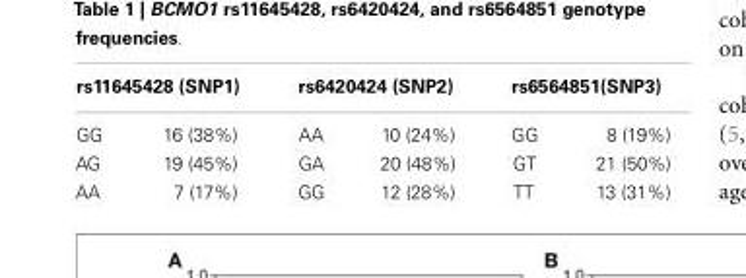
<table><thead><tr><td colspan="2">rs11645428 (SNP1)</td><td colspan="2">rs6420424 (SNP2)</td><td colspan="2">rs6564851(SNP3)</td></tr><tr><td>GG</td><td>16 (38%)</td><td>AA</td><td>10 (24%)</td><td>GG</td><td>8 (19%)</td></tr></thead><tbody><tr><td>AG</td><td>19 (45%)</td><td>GA</td><td>20 (48%)</td><td>GT</td><td>21 (50%)</td></tr><tr><td>AA</td><td>7 (17%)</td><td>GG</td><td>12 (28%)</td><td>TT</td><td>13 (31%)</td></tr></tbody></table>